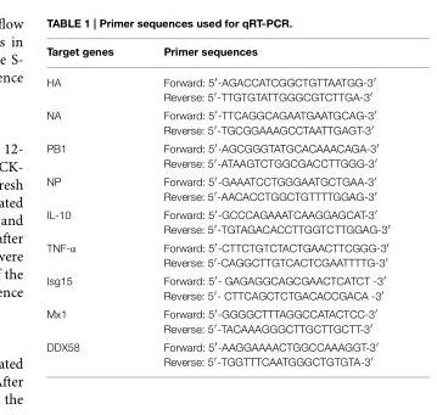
<table><thead><tr><td>Target genes</td><td>Primer sequences</td></tr></thead><tbody><tr><td>HA</td><td>Forward: 5′-AGACCATCGGCTGTTAATGG-3′ Reverse: 5′-TTGTGTATTGGGCGTCTTGA-3′</td></tr><tr><td>NA</td><td>Forward: 5′-TTCAGGCAGAATGAATGCAG-3′ Reverse: 5′-TGCGGAAAGCCTAATTGAGT-3′</td></tr><tr><td>PB1</td><td>Forward: 5′-AGCGGGTATGCACAAACAGA-3′ Reverse: 5′-ATAAGTCTGGCGACCTTGGG-3′</td></tr><tr><td>NP</td><td>Forward: 5′-GAAATCCTGGGAATGCTGAA-3′ Reverse: 5′-AACACCTGGCTGTTTTGGAG-3′</td></tr><tr><td>IL-10</td><td>Forward: 5′-GCCCAGAAATCAAGGAGCAT-3′ Reverse: 5′-TGTAGACACCTTGGTCTTGGAG-3′</td></tr><tr><td>TNF-α</td><td>Forward: 5′-CTTCTGTCTACTGAACTTCGGG-3′ Reverse: 5′-CAGGCTTGTCACTCGAATTTTG-3′</td></tr><tr><td>Isg15</td><td>Forward: 5′- GAGAGGCAGCGAACTCATCT -3′ Reverse: 5′- CTTCAGCTCTGACACCGACA -3′</td></tr><tr><td>Mx1</td><td>Forward: 5′-GGGGCTTTAGGCCATACTCC-3′ Reverse: 5′-TACAAAGGGCTTGCTTGCTT-3′</td></tr><tr><td>DDX58</td><td>Forward: 5′-AAGGAAAACTGGCCAAAGGT-3′ Reverse: 5′-TGGTTTCAATGGGCTGTGTA-3′</td></tr></tbody></table>